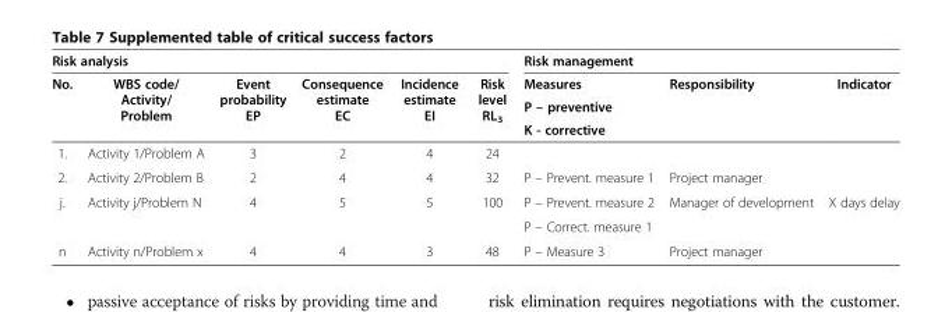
<table><thead><tr><td colspan="6">Risk analysis</td><td colspan="3">Risk management</td></tr><tr><td rowspan="3">No.</td><td rowspan="3">WBS code/ Activity/ Problem</td><td rowspan="3">Event probability EP</td><td rowspan="3">Consequence estimate EC</td><td rowspan="3">Incidence estimate EI</td><td rowspan="3">Risk level RL<sub>3</sub></td><td rowspan="3">Measures P – preventive K - corrective</td><td rowspan="3">Responsibility</td><td rowspan="3">Indicator</td></tr><tr></tr><tr></tr></thead><tbody><tr><td>1.</td><td>Activity 1/Problem A</td><td>3</td><td>2</td><td>4</td><td>24</td><td></td><td></td><td></td></tr><tr><td>2.</td><td>Activity 2/Problem B</td><td>2</td><td>4</td><td>4</td><td>32</td><td>P – Prevent. measure 1</td><td>Project manager</td><td></td></tr><tr><td rowspan="2">j.</td><td rowspan="2">Activity j/Problem N</td><td rowspan="2">4</td><td rowspan="2">5</td><td rowspan="2">5</td><td rowspan="2">100</td><td>P – Prevent. measure 2</td><td rowspan="2">Manager of development</td><td rowspan="2">X days delay</td></tr><tr><td>P – Correct. measure 1</td></tr><tr><td>n</td><td>Activity n/Problem x</td><td>4</td><td>4</td><td>3</td><td>48</td><td>P – Measure 3</td><td>Project manager</td><td></td></tr></tbody></table>